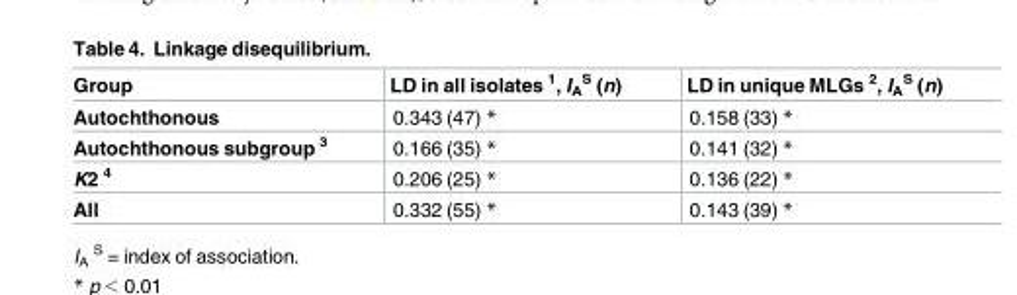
<table><thead><tr><td>Group</td><td>LD in all isolates <sup>1</sup>, I<sub>A</sub> <sup>S</sup> (n)</td><td>LD in unique MLGs <sup>2</sup>, I<sub>A</sub> <sup>S</sup> (n)</td></tr></thead><tbody><tr><td>Autochthonous</td><td>0.343 (47) *</td><td>0.158 (33) *</td></tr><tr><td>Autochthonous subgroup <sup>3</sup></td><td>0.166 (35) *</td><td>0.141 (32) *</td></tr><tr><td>K2 <sup>4</sup></td><td>0.206 (25) *</td><td>0.136 (22) *</td></tr><tr><td>All</td><td>0.332 (55) *</td><td>0.143 (39) *</td></tr></tbody></table>